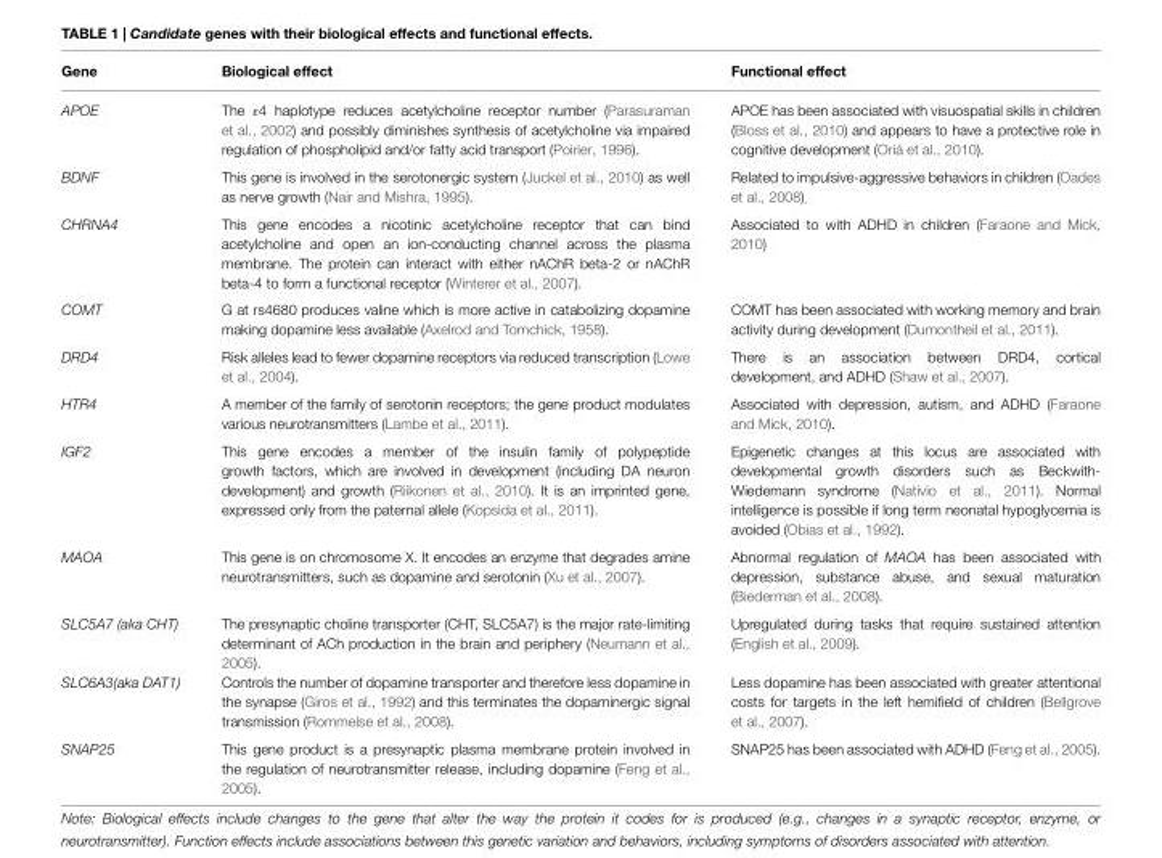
<table><thead><tr><td>Gene</td><td>Biological effect</td><td>Functional effect</td></tr></thead><tbody><tr><td>APOE</td><td>The ε4 haplotype reduces acetylcholine receptor number (Parasuraman et al., 2002) and possibly diminishes synthesis of acetylcholine via impaired regulation of phospholipid and/or fatty acid transport (Poirier, 1996).</td><td>APOE has been associated with visuospatial skills in children (Bloss et al., 2010) and appears to have a protective role in cognitive development (Oriá et al., 2010).</td></tr><tr><td>BDNF</td><td>This gene is involved in the serotonergic system (Juckel et al., 2010) as well as nerve growth (Nair and Mishra, 1995).</td><td>Related to impulsive-aggressive behaviors in children (Oades et al., 2008)<sub>.</sub></td></tr><tr><td>CHRNA4</td><td>This gene encodes a nicotinic acetylcholine receptor that can bind acetylcholine and open an ion-conducting channel across the plasma membrane. The protein can interact with either nAChR beta-2 or nAChR beta-4 to form a functional receptor (Winterer et al., 2007).</td><td>Associated to with ADHD in children (Faraone and Mick, 2010)</td></tr><tr><td>COMT</td><td>G at rs4680 produces valine which is more active in catabolizing dopamine making dopamine less available (Axelrod and Tomchick, 1958).</td><td>COMT has been associated with working memory and brain activity during development (Dumontheil et al., 2011).</td></tr><tr><td>DRD4</td><td>Risk alleles lead to fewer dopamine receptors via reduced transcription (Lowe et al., 2004).</td><td>There is an association between DRD4, cortical development, and ADHD (Shaw et al., 2007).</td></tr><tr><td>HTR4</td><td>A member of the family of serotonin receptors; the gene product modulates various neurotransmitters (Lambe et al., 2011).</td><td>Associated with depression, autism, and ADHD (Faraone and Mick, 2010).</td></tr><tr><td>IGF2</td><td>This gene encodes a member of the insulin family of polypeptide growth factors, which are involved in development (including DA neuron development) and growth (Riikonen et al., 2010). It is an imprinted gene, expressed only from the paternal allele (Kopsida et al., 2011).</td><td>Epigenetic changes at this locus are associated with developmental growth disorders such as Beckwith- Wiedemann syndrome (Nativio et al., 2011). Normal intelligence is possible if long term neonatal hypoglycemia is avoided (Obias et al., 1992).</td></tr><tr><td>MAOA</td><td>This gene is on chromosome X. It encodes an enzyme that degrades amine neurotransmitters, such as dopamine and serotonin (Xu et al., 2007).</td><td>Abnormal regulation of MAOA has been associated with depression, substance abuse, and sexual maturation (Biederman et al., 2008).</td></tr><tr><td>SLC5A7 (aka CHT)</td><td>The presynaptic choline transporter (CHT, SLC5A7) is the major rate-limiting determinant of ACh production in the brain and periphery (Neumann et al., 2005).</td><td>Upregulated during tasks that require sustained attention (English et al., 2009).</td></tr><tr><td>SLC6A3(aka DAT1)</td><td>Controls the number of dopamine transporter and therefore less dopamine in the synapse (Giros et al., 1992) and this terminates the dopaminergic signal transmission (Rommelse et al., 2008).</td><td>Less dopamine has been associated with greater attentional costs for targets in the left hemifield of children (Bellgrove et al., 2007).</td></tr><tr><td>SNAP25</td><td>This gene product is a presynaptic plasma membrane protein involved in the regulation of neurotransmitter release, including dopamine (Feng et al., 2005).</td><td>SNAP25 has been associated with ADHD (Feng et al., 2005).</td></tr></tbody></table>